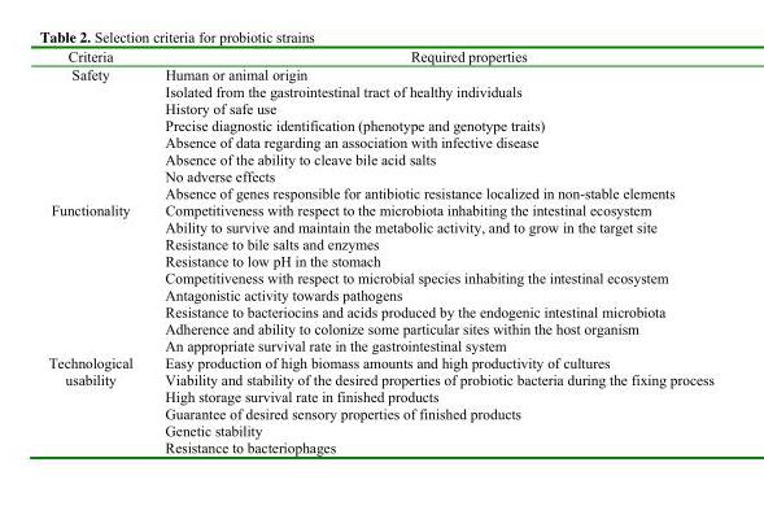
<table><thead><tr><td>Criteria</td><td>Required properties</td></tr></thead><tbody><tr><td>Safety</td><td>Human or animal origin Isolated from the gastrointestinal tract of healthy individuals History of safe use Precise diagnostic identification (phenotype and genotype traits) Absence of data regarding an association with infective disease Absence of the ability to cleave bile acid salts No adverse effects Absence of genes responsible for antibiotic resistance localized in non-stable elements</td></tr><tr><td>Functionality</td><td>Competitiveness with respect to the microbiota inhabiting the intestinal ecosystem Ability to survive and maintain the metabolic activity, and to grow in the target site Resistance to bile salts and enzymes Resistance to low pH in the stomach Competitiveness with respect to microbial species inhabiting the intestinal ecosystem Antagonistic activity towards pathogens Resistance to bacteriocins and acids produced by the endogenic intestinal microbiota Adherence and ability to colonize some particular sites within the host organism An appropriate survival rate in the gastrointestinal system</td></tr><tr><td>Technological usability</td><td>Easy production of high biomass amounts and high productivity of cultures Viability and stability of the desired properties of probiotic bacteria during the fixing process High storage survival rate in finished products Guarantee of desired sensory properties of finished products Genetic stability Resistance to bacteriophages</td></tr></tbody></table>